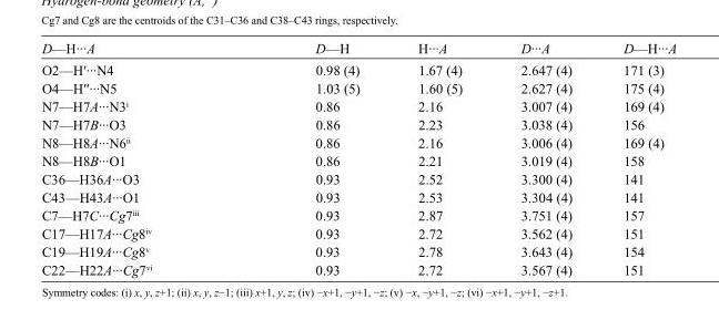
<table><tbody><tr><td>D—H···A</td><td>D—H</td><td>H···A</td><td>D···A</td><td>D—H···A</td></tr><tr><td>O2—H′···N4</td><td>0.98 (4)</td><td>1.67 (4)</td><td>2.647 (4)</td><td>171 (3)</td></tr><tr><td>O4—H′′···N5</td><td>1.03 (5)</td><td>1.60 (5)</td><td>2.627 (4)</td><td>175 (4)</td></tr><tr><td>N7—H7A···N3<sup>i</sup></td><td>0.86</td><td>2.16</td><td>3.007 (4)</td><td>169 (4)</td></tr><tr><td>N7—H7B···O3</td><td>0.86</td><td>2.23</td><td>3.038 (4)</td><td>156</td></tr><tr><td>N8—H8A···N6<sup>ii</sup></td><td>0.86</td><td>2.16</td><td>3.006 (4)</td><td>169 (4)</td></tr><tr><td>N8—H8B···O1</td><td>0.86</td><td>2.21</td><td>3.019 (4)</td><td>158</td></tr><tr><td>C36—H36A···O3</td><td>0.93</td><td>2.52</td><td>3.300 (4)</td><td>141</td></tr><tr><td>C43—H43A···O1</td><td>0.93</td><td>2.53</td><td>3.304 (4)</td><td>141</td></tr><tr><td>C7—H7C···Cg7<sup>iii</sup></td><td>0.93</td><td>2.87</td><td>3.751 (4)</td><td>157</td></tr><tr><td>C17—H17A···Cg8<sup>iv</sup></td><td>0.93</td><td>2.72</td><td>3.562 (4)</td><td>151</td></tr><tr><td>C19—H19A···Cg8<sup>v</sup></td><td>0.93</td><td>2.78</td><td>3.643 (4)</td><td>154</td></tr><tr><td>C22—H22A···Cg7<sup>vi</sup></td><td>0.93</td><td>2.72</td><td>3.567 (4)</td><td>151</td></tr></tbody></table>